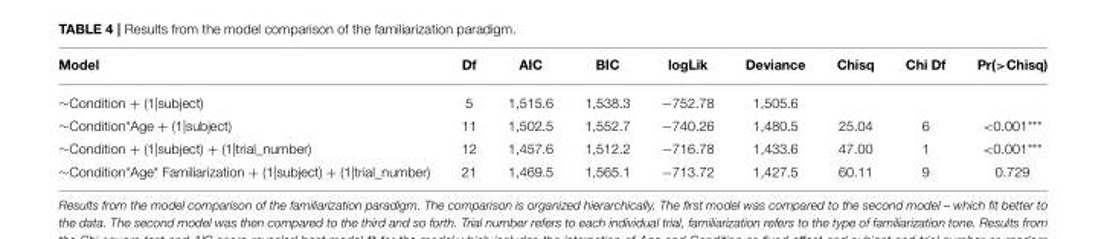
<table><thead><tr><td>Model</td><td>Df</td><td>AIC</td><td>BIC</td><td>logLik</td><td>Deviance</td><td>Chisq</td><td>Chi Df</td><td>Pr(&gt;Chisq)</td></tr></thead><tbody><tr><td>∼Condition + (1|subject)</td><td>5</td><td>1,515.6</td><td>1,538.3</td><td>−752.78</td><td>1,505.6</td><td></td><td></td><td></td></tr><tr><td>∼Condition*Age + (1|subject)</td><td>11</td><td>1,502.5</td><td>1,552.7</td><td>−740.26</td><td>1,480.5</td><td>25.04</td><td>6</td><td>&lt;0.001***</td></tr><tr><td>∼Condition + (1|subject) + (1|trial_number)</td><td>12</td><td>1,457.6</td><td>1,512.2</td><td>−716.78</td><td>1,433.6</td><td>47.00</td><td>1</td><td>&lt;0.001***</td></tr><tr><td>∼Condition*Age* Familiarization + (1|subject) + (1|trial_number)</td><td>21</td><td>1,469.5</td><td>1,565.1</td><td>−713.72</td><td>1,427.5</td><td>60.11</td><td>9</td><td>0.729</td></tr></tbody></table>